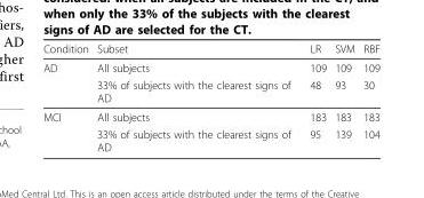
<table><thead><tr><td>Condition</td><td>Subset</td><td>LR</td><td>SVM</td><td>RBF</td></tr></thead><tbody><tr><td rowspan="2">AD</td><td>All subjects</td><td>109</td><td>109</td><td>109</td></tr><tr><td>33% of subjects with the clearest signs of AD</td><td>48</td><td>93</td><td>30</td></tr><tr><td rowspan="2">MCI</td><td>All subjects</td><td>183</td><td>183</td><td>183</td></tr><tr><td>33% of subjects with the clearest signs of AD</td><td>95</td><td>139</td><td>104</td></tr></tbody></table>